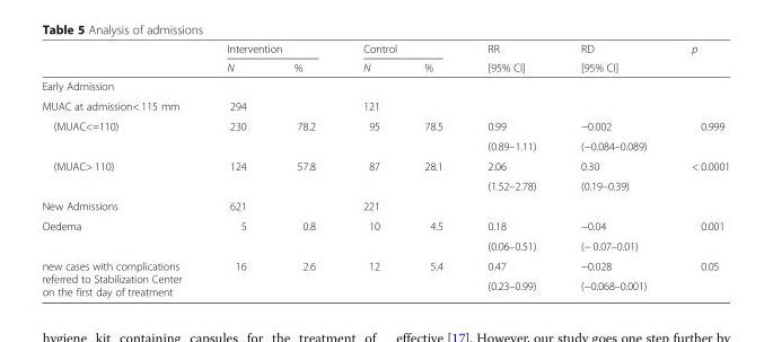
<table><thead><tr><td rowspan="2"></td><td colspan="2">Intervention</td><td colspan="2">Control</td><td rowspan="2">RR [95% CI]</td><td rowspan="2">RD [95% CI]</td><td rowspan="2">p</td></tr><tr><td>N</td><td>%</td><td>N</td><td>%</td></tr></thead><tbody><tr><td colspan="8">Early Admission</td></tr><tr><td>MUAC at admission&lt; 115 mm</td><td>294</td><td></td><td>121</td><td></td><td></td><td></td><td></td></tr><tr><td rowspan="2">(MUAC&lt;=110)</td><td rowspan="2">230</td><td rowspan="2">78.2</td><td rowspan="2">95</td><td rowspan="2">78.5</td><td>0.99</td><td>−0.002</td><td rowspan="2">0.999</td></tr><tr><td>(0.89–1.11)</td><td>(−0.084–0.089)</td></tr><tr><td rowspan="2">(MUAC&gt; 110)</td><td rowspan="2">124</td><td rowspan="2">57.8</td><td rowspan="2">87</td><td rowspan="2">28.1</td><td>2.06</td><td>0.30</td><td rowspan="2">&lt; 0.0001</td></tr><tr><td>(1.52–2.78)</td><td>(0.19–0.39)</td></tr><tr><td>New Admissions</td><td>621</td><td></td><td>221</td><td></td><td></td><td></td><td></td></tr><tr><td rowspan="2">Oedema</td><td rowspan="2">5</td><td rowspan="2">0.8</td><td rowspan="2">10</td><td rowspan="2">4.5</td><td>0.18</td><td>−0.04</td><td rowspan="2">0.001</td></tr><tr><td>(0.06–0.51)</td><td>(− 0.07–0.01)</td></tr><tr><td rowspan="2">new cases with complications referred to Stabilization Center on the first day of treatment</td><td rowspan="2">16</td><td rowspan="2">2.6</td><td rowspan="2">12</td><td rowspan="2">5.4</td><td>0.47</td><td>−0.028</td><td rowspan="2">0.05</td></tr><tr><td>(0.23–0.99)</td><td>(−0.068–0.001)</td></tr></tbody></table>